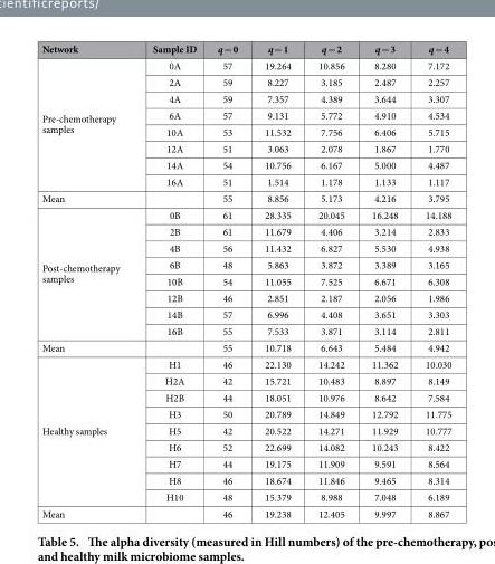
<table><thead><tr><td>Network</td><td>Sample ID</td><td>q = 0</td><td>q = 1</td><td>q = 2</td><td>q = 3</td><td>q = 4</td></tr></thead><tbody><tr><td rowspan="8">Pre-chemotherapy samples</td><td>0A</td><td>57</td><td>19.264</td><td>10.856</td><td>8.280</td><td>7.172</td></tr><tr><td>2A</td><td>59</td><td>8.227</td><td>3.185</td><td>2.487</td><td>2.257</td></tr><tr><td>4A</td><td>59</td><td>7.357</td><td>4.389</td><td>3.644</td><td>3.307</td></tr><tr><td>6A</td><td>57</td><td>9.131</td><td>5.772</td><td>4.910</td><td>4.534</td></tr><tr><td>10A</td><td>53</td><td>11.532</td><td>7.756</td><td>6.406</td><td>5.715</td></tr><tr><td>12A</td><td>51</td><td>3.063</td><td>2.078</td><td>1.867</td><td>1.770</td></tr><tr><td>14A</td><td>54</td><td>10.756</td><td>6.167</td><td>5.000</td><td>4.487</td></tr><tr><td>16A</td><td>51</td><td>1.514</td><td>1.178</td><td>1.133</td><td>1.117</td></tr><tr><td>Mean</td><td></td><td>55</td><td>8.856</td><td>5.173</td><td>4.216</td><td>3.795</td></tr><tr><td rowspan="8">Post-chemotherapy samples</td><td>0B</td><td>61</td><td>28.335</td><td>20.045</td><td>16.248</td><td>14.188</td></tr><tr><td>2B</td><td>61</td><td>11.679</td><td>4.406</td><td>3.214</td><td>2.833</td></tr><tr><td>4B</td><td>56</td><td>11.432</td><td>6.827</td><td>5.530</td><td>4.938</td></tr><tr><td>6B</td><td>48</td><td>5.863</td><td>3.872</td><td>3.389</td><td>3.165</td></tr><tr><td>10B</td><td>54</td><td>11.055</td><td>7.525</td><td>6.671</td><td>6.308</td></tr><tr><td>12B</td><td>46</td><td>2.851</td><td>2.187</td><td>2.056</td><td>1.986</td></tr><tr><td>14B</td><td>57</td><td>6.996</td><td>4.408</td><td>3.651</td><td>3.303</td></tr><tr><td>16B</td><td>55</td><td>7.533</td><td>3.871</td><td>3.114</td><td>2.811</td></tr><tr><td>Mean</td><td></td><td>55</td><td>10.718</td><td>6.643</td><td>5.484</td><td>4.942</td></tr><tr><td rowspan="9">Healthy samples</td><td>H1</td><td>46</td><td>22.130</td><td>14.242</td><td>11.362</td><td>10.030</td></tr><tr><td>H2A</td><td>42</td><td>15.721</td><td>10.483</td><td>8.897</td><td>8.149</td></tr><tr><td>H2B</td><td>44</td><td>18.051</td><td>10.976</td><td>8.642</td><td>7.584</td></tr><tr><td>H3</td><td>50</td><td>20.789</td><td>14.849</td><td>12.792</td><td>11.775</td></tr><tr><td>H5</td><td>42</td><td>20.522</td><td>14.271</td><td>11.929</td><td>10.777</td></tr><tr><td>H6</td><td>52</td><td>22.699</td><td>14.082</td><td>10.243</td><td>8.422</td></tr><tr><td>H7</td><td>44</td><td>19.175</td><td>11.909</td><td>9.591</td><td>8.564</td></tr><tr><td>H8</td><td>46</td><td>18.674</td><td>11.846</td><td>9.465</td><td>8.314</td></tr><tr><td>H10</td><td>48</td><td>15.379</td><td>8.988</td><td>7.048</td><td>6.189</td></tr><tr><td>Mean</td><td></td><td>46</td><td>19.238</td><td>12.405</td><td>9.997</td><td>8.867</td></tr></tbody></table>